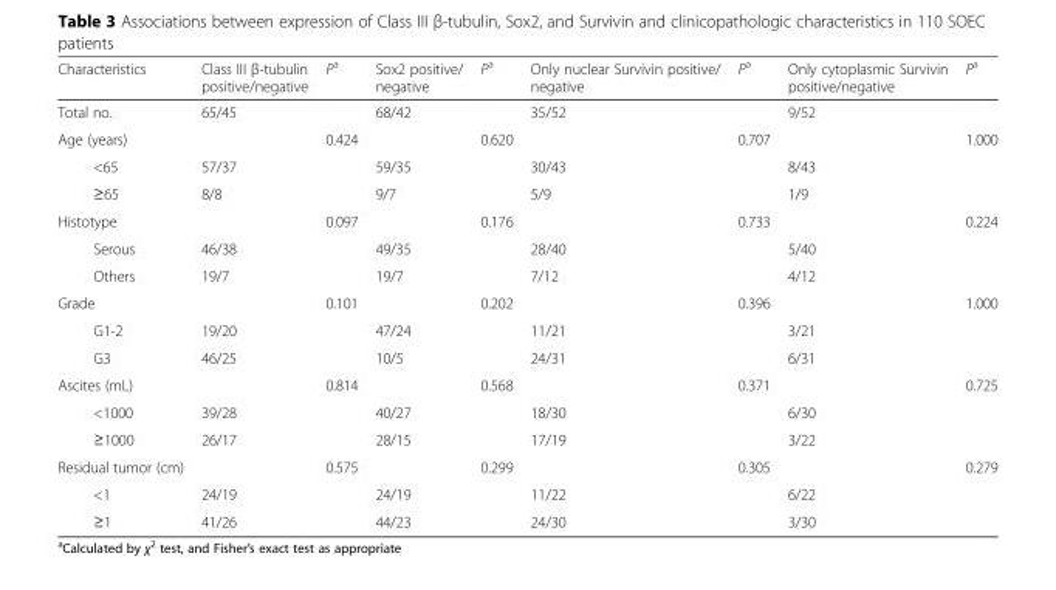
<table><thead><tr><td>Characteristics</td><td>Class III β-tubulin positive/negative</td><td>P<sup>a</sup></td><td>Sox2 positive/ negative</td><td>P<sup>a</sup></td><td>Only nuclear Survivin positive/ negative</td><td>P<sup>a</sup></td><td>Only cytoplasmic Survivin positive/negative</td><td>P<sup>a</sup></td></tr></thead><tbody><tr><td>Total no.</td><td>65/45</td><td></td><td>68/42</td><td></td><td>35/52</td><td></td><td>9/52</td><td></td></tr><tr><td>Age (years)</td><td></td><td>0.424</td><td></td><td>0.620</td><td></td><td>0.707</td><td></td><td>1.000</td></tr><tr><td>&lt;65</td><td>57/37</td><td></td><td>59/35</td><td></td><td>30/43</td><td></td><td>8/43</td><td></td></tr><tr><td>≥65</td><td>8/8</td><td></td><td>9/7</td><td></td><td>5/9</td><td></td><td>1/9</td><td></td></tr><tr><td>Histotype</td><td></td><td>0.097</td><td></td><td>0.176</td><td></td><td>0.733</td><td></td><td>0.224</td></tr><tr><td>Serous</td><td>46/38</td><td></td><td>49/35</td><td></td><td>28/40</td><td></td><td>5/40</td><td></td></tr><tr><td>Others</td><td>19/7</td><td></td><td>19/7</td><td></td><td>7/12</td><td></td><td>4/12</td><td></td></tr><tr><td>Grade</td><td></td><td>0.101</td><td></td><td>0.202</td><td></td><td>0.396</td><td></td><td>1.000</td></tr><tr><td>G1-2</td><td>19/20</td><td></td><td>47/24</td><td></td><td>11/21</td><td></td><td>3/21</td><td></td></tr><tr><td>G3</td><td>46/25</td><td></td><td>10/5</td><td></td><td>24/31</td><td></td><td>6/31</td><td></td></tr><tr><td>Ascites (mL)</td><td></td><td>0.814</td><td></td><td>0.568</td><td></td><td>0.371</td><td></td><td>0.725</td></tr><tr><td>&lt;1000</td><td>39/28</td><td></td><td>40/27</td><td></td><td>18/30</td><td></td><td>6/30</td><td></td></tr><tr><td>≥1000</td><td>26/17</td><td></td><td>28/15</td><td></td><td>17/19</td><td></td><td>3/22</td><td></td></tr><tr><td>Residual tumor (cm)</td><td></td><td>0.575</td><td></td><td>0.299</td><td></td><td>0.305</td><td></td><td>0.279</td></tr><tr><td>&lt;1</td><td>24/19</td><td></td><td>24/19</td><td></td><td>11/22</td><td></td><td>6/22</td><td></td></tr><tr><td>≥1</td><td>41/26</td><td></td><td>44/23</td><td></td><td>24/30</td><td></td><td>3/30</td><td></td></tr></tbody></table>